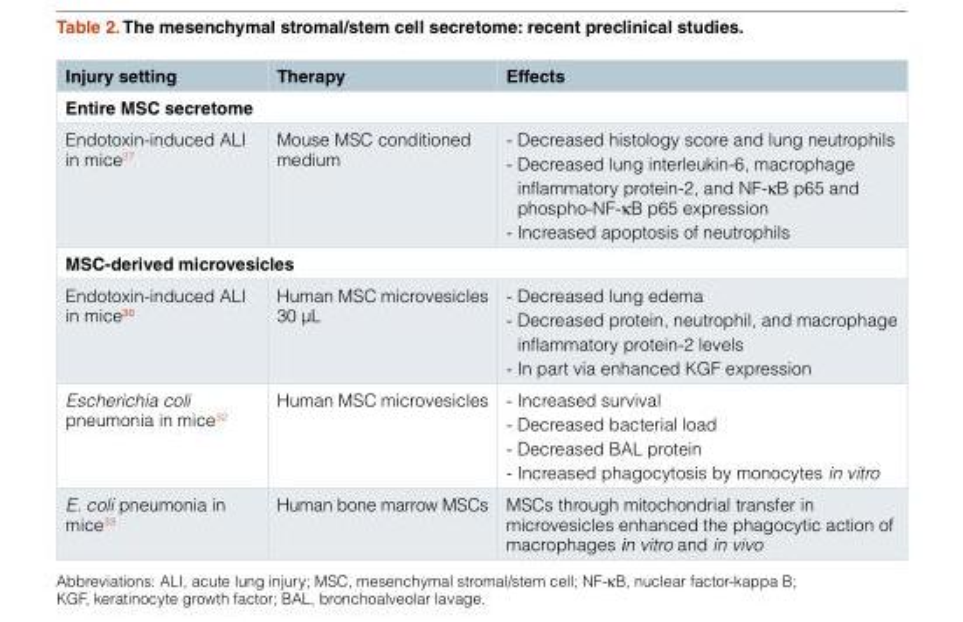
<table><thead><tr><td>Injury setting</td><td>Therapy</td><td>Effects</td></tr></thead><tbody><tr><td colspan="3">Entire MSC secretome</td></tr><tr><td>Endotoxin-induced ALI in mice<sup>27</sup></td><td>Mouse MSC conditioned medium</td><td>- Decreased histology score and lung neutrophils - Decreased lung interleukin-6, macrophage inflammatory protein-2, and NF-κB p65 and phospho-NF-κB p65 expression - Increased apoptosis of neutrophils</td></tr><tr><td colspan="3">MSC-derived microvesicles</td></tr><tr><td>Endotoxin-induced ALI in mice<sup>30</sup></td><td>Human MSC microvesicles 30 μL</td><td>- Decreased lung edema - Decreased protein, neutrophil, and macrophage inflammatory protein-2 levels - In part via enhanced KGF expression</td></tr><tr><td>Escherichia coli pneumonia in mice<sup>32</sup></td><td>Human MSC microvesicles</td><td>- Increased survival - Decreased bacterial load - Decreased BAL protein - Increased phagocytosis by monocytes in vitro</td></tr><tr><td>E. coli pneumonia in mice<sup>33</sup></td><td>Human bone marrow MSCs</td><td>MSCs through mitochondrial transfer in microvesicles enhanced the phagocytic action of macrophages in vitro and in vivo</td></tr></tbody></table>